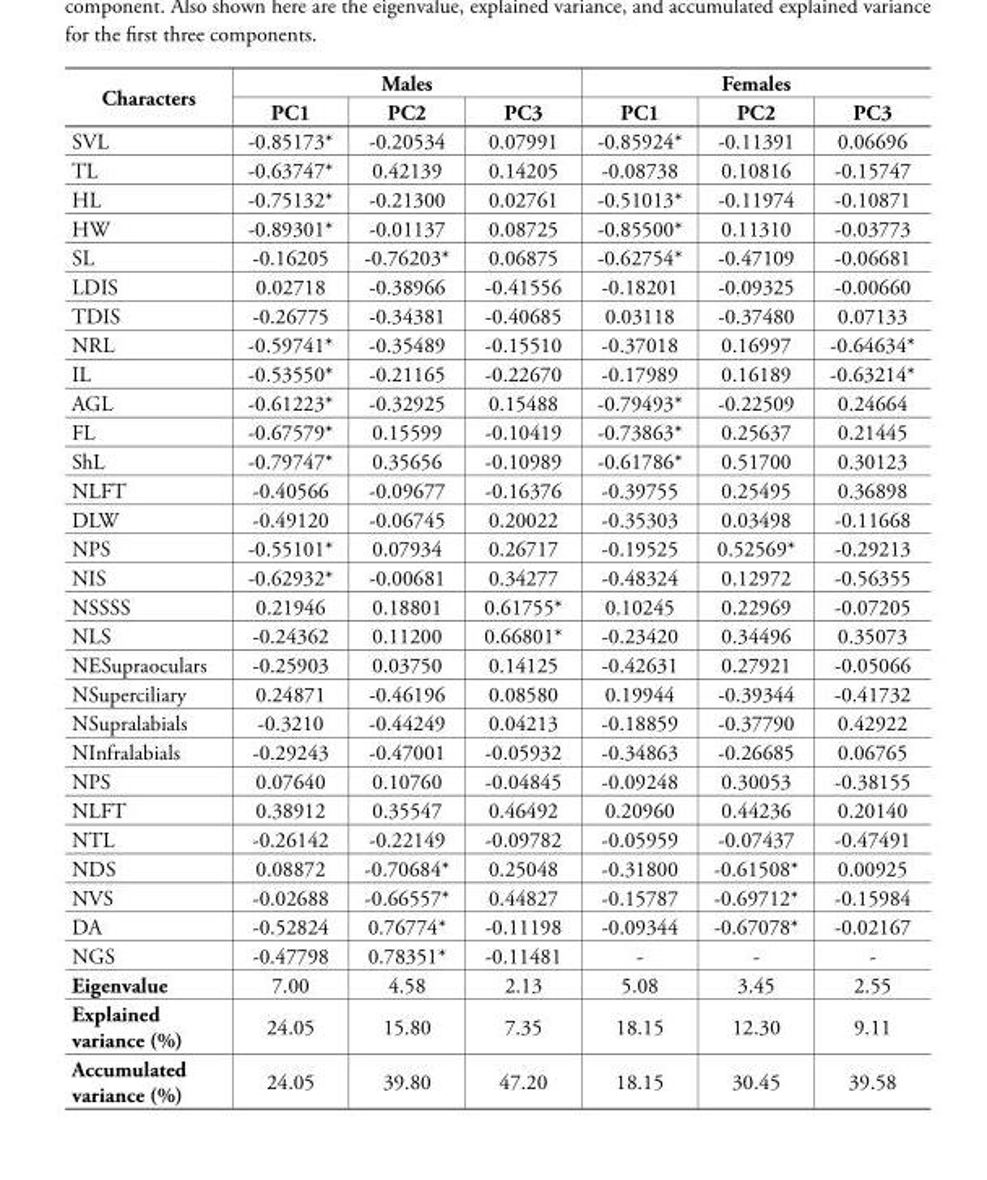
<table><thead><tr><td rowspan="2">Characters</td><td colspan="3">Males</td><td colspan="3">Females</td></tr><tr><td>PC1</td><td>PC2</td><td>PC3</td><td>PC1</td><td>PC2</td><td>PC3</td></tr></thead><tbody><tr><td>SVL</td><td>-0.85173*</td><td>-0.20534</td><td>0.07991</td><td>-0.85924*</td><td>-0.11391</td><td>0.06696</td></tr><tr><td>TL</td><td>-0.63747*</td><td>0.42139</td><td>0.14205</td><td>-0.08738</td><td>0.10816</td><td>-0.15747</td></tr><tr><td>HL</td><td>-0.75132*</td><td>-0.21300</td><td>0.02761</td><td>-0.51013*</td><td>-0.11974</td><td>-0.10871</td></tr><tr><td>HW</td><td>-0.89301*</td><td>-0.01137</td><td>0.08725</td><td>-0.85500*</td><td>0.11310</td><td>-0.03773</td></tr><tr><td>SL</td><td>-0.16205</td><td>-0.76203*</td><td>0.06875</td><td>-0.62754*</td><td>-0.47109</td><td>-0.06681</td></tr><tr><td>LDIS</td><td>0.02718</td><td>-0.38966</td><td>-0.41556</td><td>-0.18201</td><td>-0.09325</td><td>-0.00660</td></tr><tr><td>TDIS</td><td>-0.26775</td><td>-0.34381</td><td>-0.40685</td><td>0.03118</td><td>-0.37480</td><td>0.07133</td></tr><tr><td>NRL</td><td>-0.59741*</td><td>-0.35489</td><td>-0.15510</td><td>-0.37018</td><td>0.16997</td><td>-0.64634*</td></tr><tr><td>IL</td><td>-0.53550*</td><td>-0.21165</td><td>-0.22670</td><td>-0.17989</td><td>0.16189</td><td>-0.63214*</td></tr><tr><td>AGL</td><td>-0.61223*</td><td>-0.32925</td><td>0.15488</td><td>-0.79493*</td><td>-0.22509</td><td>0.24664</td></tr><tr><td>FL</td><td>-0.67579*</td><td>0.15599</td><td>-0.10419</td><td>-0.73863*</td><td>0.25637</td><td>0.21445</td></tr><tr><td>ShL</td><td>-0.79747*</td><td>0.35656</td><td>-0.10989</td><td>-0.61786*</td><td>0.51700</td><td>0.30123</td></tr><tr><td>NLFT</td><td>-0.40566</td><td>-0.09677</td><td>-0.16376</td><td>-0.39755</td><td>0.25495</td><td>0.36898</td></tr><tr><td>DLW</td><td>-0.49120</td><td>-0.06745</td><td>0.20022</td><td>-0.35303</td><td>0.03498</td><td>-0.11668</td></tr><tr><td>NPS</td><td>-0.55101*</td><td>0.07934</td><td>0.26717</td><td>-0.19525</td><td>0.52569*</td><td>-0.29213</td></tr><tr><td>NIS</td><td>-0.62932*</td><td>-0.00681</td><td>0.34277</td><td>-0.48324</td><td>0.12972</td><td>-0.56355</td></tr><tr><td>NSSSS</td><td>0.21946</td><td>0.18801</td><td>0.61755*</td><td>0.10245</td><td>0.22969</td><td>-0.07205</td></tr><tr><td>NLS</td><td>-0.24362</td><td>0.11200</td><td>0.66801*</td><td>-0.23420</td><td>0.34496</td><td>0.35073</td></tr><tr><td>NESupraoculars</td><td>-0.25903</td><td>0.03750</td><td>0.14125</td><td>-0.42631</td><td>0.27921</td><td>-0.05066</td></tr><tr><td>NSuperciliary</td><td>0.24871</td><td>-0.46196</td><td>0.08580</td><td>0.19944</td><td>-0.39344</td><td>-0.41732</td></tr><tr><td>NSupralabials</td><td>-0.3210</td><td>-0.44249</td><td>0.04213</td><td>-0.18859</td><td>-0.37790</td><td>0.42922</td></tr><tr><td>NInfralabials</td><td>-0.29243</td><td>-0.47001</td><td>-0.05932</td><td>-0.34863</td><td>-0.26685</td><td>0.06765</td></tr><tr><td>NPS</td><td>0.07640</td><td>0.10760</td><td>-0.04845</td><td>-0.09248</td><td>0.30053</td><td>-0.38155</td></tr><tr><td>NLFT</td><td>0.38912</td><td>0.35547</td><td>0.46492</td><td>0.20960</td><td>0.44236</td><td>0.20140</td></tr><tr><td>NTL</td><td>-0.26142</td><td>-0.22149</td><td>-0.09782</td><td>-0.05959</td><td>-0.07437</td><td>-0.47491</td></tr><tr><td>NDS</td><td>0.08872</td><td>-0.70684*</td><td>0.25048</td><td>-0.31800</td><td>-0.61508*</td><td>0.00925</td></tr><tr><td>NVS</td><td>-0.02688</td><td>-0.66557*</td><td>0.44827</td><td>-0.15787</td><td>-0.69712*</td><td>-0.15984</td></tr><tr><td>DA</td><td>-0.52824</td><td>0.76774*</td><td>-0.11198</td><td>-0.09344</td><td>-0.67078*</td><td>-0.02167</td></tr><tr><td>NGS</td><td>-0.47798</td><td>0.78351*</td><td>-0.11481</td><td>-</td><td>-</td><td>-</td></tr><tr><td>Eigenvalue</td><td>7.00</td><td>4.58</td><td>2.13</td><td>5.08</td><td>3.45</td><td>2.55</td></tr><tr><td>Explained variance (%)</td><td>24.05</td><td>15.80</td><td>7.35</td><td>18.15</td><td>12.30</td><td>9.11</td></tr><tr><td>Accumulated variance (%)</td><td>24.05</td><td>39.80</td><td>47.20</td><td>18.15</td><td>30.45</td><td>39.58</td></tr></tbody></table>